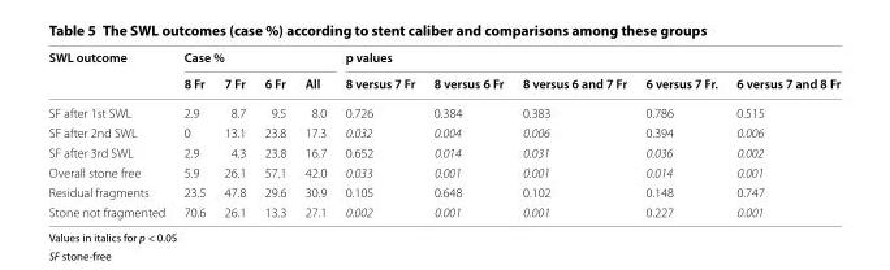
<table><thead><tr><td rowspan="2">SWL outcome</td><td colspan="4">Case %</td><td colspan="5">p values</td></tr><tr><td>8 Fr</td><td>7 Fr</td><td>6 Fr</td><td>All</td><td>8 versus 7 Fr</td><td>8 versus 6 Fr</td><td>8 versus 6 and 7 Fr</td><td>6 versus 7 Fr.</td><td>6 versus 7 and 8 Fr</td></tr></thead><tbody><tr><td>SF after 1st SWL</td><td>2.9</td><td>8.7</td><td>9.5</td><td>8.0</td><td>0.726</td><td>0.384</td><td>0.383</td><td>0.786</td><td>0.515</td></tr><tr><td>SF after 2nd SWL</td><td>0</td><td>13.1</td><td>23.8</td><td>17.3</td><td>0.032</td><td>0.004</td><td>0.006</td><td>0.394</td><td>0.006</td></tr><tr><td>SF after 3rd SWL</td><td>2.9</td><td>4.3</td><td>23.8</td><td>16.7</td><td>0.652</td><td>0.014</td><td>0.031</td><td>0.036</td><td>0.002</td></tr><tr><td>Overall stone free</td><td>5.9</td><td>26.1</td><td>57.1</td><td>42.0</td><td>0.033</td><td>0.001</td><td>0.001</td><td>0.014</td><td>0.001</td></tr><tr><td>Residual fragments</td><td>23.5</td><td>47.8</td><td>29.6</td><td>30.9</td><td>0.105</td><td>0.648</td><td>0.102</td><td>0.148</td><td>0.747</td></tr><tr><td>Stone not fragmented</td><td>70.6</td><td>26.1</td><td>13.3</td><td>27.1</td><td>0.002</td><td>0.001</td><td>0.001</td><td>0.227</td><td>0.001</td></tr></tbody></table>